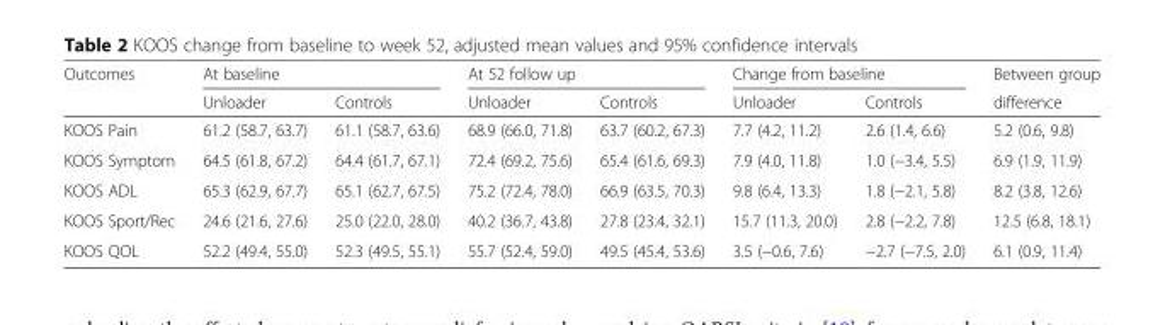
<table><thead><tr><td rowspan="2">Outcomes</td><td colspan="2">At baseline</td><td colspan="2">At 52 follow up</td><td colspan="2">Change from baseline</td><td rowspan="2">Between group difference</td></tr><tr><td>Unloader</td><td>Controls</td><td>Unloader</td><td>Controls</td><td>Unloader</td><td>Controls</td></tr></thead><tbody><tr><td>KOOS Pain</td><td>61.2 (58.7, 63.7)</td><td>61.1 (58.7, 63.6)</td><td>68.9 (66.0, 71.8)</td><td>63.7 (60.2, 67.3)</td><td>7.7 (4.2, 11.2)</td><td>2.6 (1.4, 6.6)</td><td>5.2 (0.6, 9.8)</td></tr><tr><td>KOOS Symptom</td><td>64.5 (61.8, 67.2)</td><td>64.4 (61.7, 67.1)</td><td>72.4 (69.2, 75.6)</td><td>65.4 (61.6, 69.3)</td><td>7.9 (4.0, 11.8)</td><td>1.0 (−3.4, 5.5)</td><td>6.9 (1.9, 11.9)</td></tr><tr><td>KOOS ADL</td><td>65.3 (62.9, 67.7)</td><td>65.1 (62.7, 67.5)</td><td>75.2 (72.4, 78.0)</td><td>66.9 (63.5, 70.3)</td><td>9.8 (6.4, 13.3)</td><td>1.8 (−2.1, 5.8)</td><td>8.2 (3.8, 12.6)</td></tr><tr><td>KOOS Sport/Rec</td><td>24.6 (21.6, 27.6)</td><td>25.0 (22.0, 28.0)</td><td>40.2 (36.7, 43.8)</td><td>27.8 (23.4, 32.1)</td><td>15.7 (11.3, 20.0)</td><td>2.8 (−2.2, 7.8)</td><td>12.5 (6.8, 18.1)</td></tr><tr><td>KOOS QOL</td><td>52.2 (49.4, 55.0)</td><td>52.3 (49.5, 55.1)</td><td>55.7 (52.4, 59.0)</td><td>49.5 (45.4, 53.6)</td><td>3.5 (−0.6, 7.6)</td><td>−2.7 (−7.5, 2.0)</td><td>6.1 (0.9, 11.4)</td></tr></tbody></table>